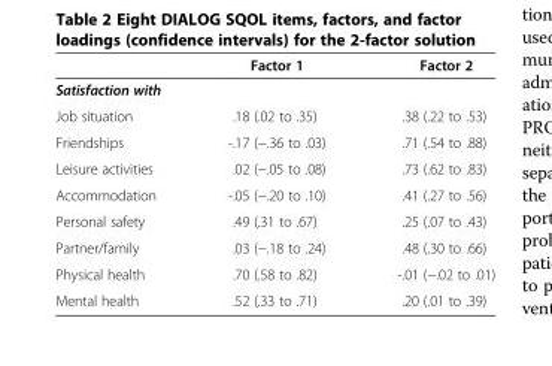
<table><thead><tr><td></td><td>Factor 1</td><td>Factor 2</td></tr></thead><tbody><tr><td colspan="3">Satisfaction with</td></tr><tr><td>Job situation</td><td>.18 (.02 to .35)</td><td>.38 (.22 to .53)</td></tr><tr><td>Friendships</td><td>-.17 (−.36 to .03)</td><td>.71 (.54 to .88)</td></tr><tr><td>Leisure activities</td><td>.02 (−.05 to .08)</td><td>.73 (.62 to .83)</td></tr><tr><td>Accommodation</td><td>-.05 (−.20 to .10)</td><td>.41 (.27 to .56)</td></tr><tr><td>Personal safety</td><td>.49 (.31 to .67)</td><td>.25 (.07 to .43)</td></tr><tr><td>Partner/family</td><td>.03 (−.18 to .24)</td><td>.48 (.30 to .66)</td></tr><tr><td>Physical health</td><td>.70 (.58 to .82)</td><td>-.01 (−.02 to .01)</td></tr><tr><td>Mental health</td><td>.52 (.33 to .71)</td><td>.20 (.01 to .39)</td></tr></tbody></table>